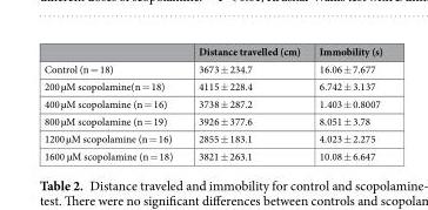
<table><thead><tr><td></td><td>Distance travelled (cm)</td><td>Immobility (s)</td></tr></thead><tbody><tr><td>Control (n = 18)</td><td>3673 ± 234.7</td><td>16.06 ± 7.677</td></tr><tr><td>200 µM scopolamine(n = 18)</td><td>4115 ± 228.4</td><td>6.742 ± 3.137</td></tr><tr><td>400 µM scopolamine (n = 16)</td><td>3738 ± 287.2</td><td>1.403 ± 0.8007</td></tr><tr><td>800 µM scopolamine (n = 19)</td><td>3926 ± 377.6</td><td>8.051 ± 3.78</td></tr><tr><td>1200 µM scopolamine (n = 16)</td><td>2855 ± 183.1</td><td>4.023 ± 2.275</td></tr><tr><td>1600 µM scopolamine (n = 18)</td><td>3821 ± 263.1</td><td>10.08 ± 6.647</td></tr></tbody></table>